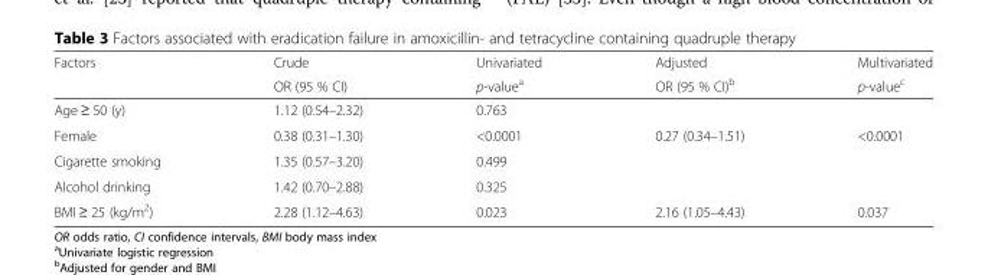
<table><thead><tr><td rowspan="2">Factors</td><td rowspan="2">Crude OR (95 % CI)</td><td rowspan="2">Univariated p-value<sup>a</sup></td><td rowspan="2">Adjusted OR (95 % CI)<sup>b</sup></td><td rowspan="2">Multivariated p-value<sup>c</sup></td></tr><tr></tr></thead><tbody><tr><td>Age ≥ 50 (y)</td><td>1.12 (0.54–2.32)</td><td>0.763</td><td></td><td></td></tr><tr><td>Female</td><td>0.38 (0.31–1.30)</td><td>&lt;0.0001</td><td>0.27 (0.34–1.51)</td><td>&lt;0.0001</td></tr><tr><td>Cigarette smoking</td><td>1.35 (0.57–3.20)</td><td>0.499</td><td></td><td></td></tr><tr><td>Alcohol drinking</td><td>1.42 (0.70–2.88)</td><td>0.325</td><td></td><td></td></tr><tr><td>BMI ≥ 25 (kg/m<sup>2</sup>)</td><td>2.28 (1.12–4.63)</td><td>0.023</td><td>2.16 (1.05–4.43)</td><td>0.037</td></tr></tbody></table>